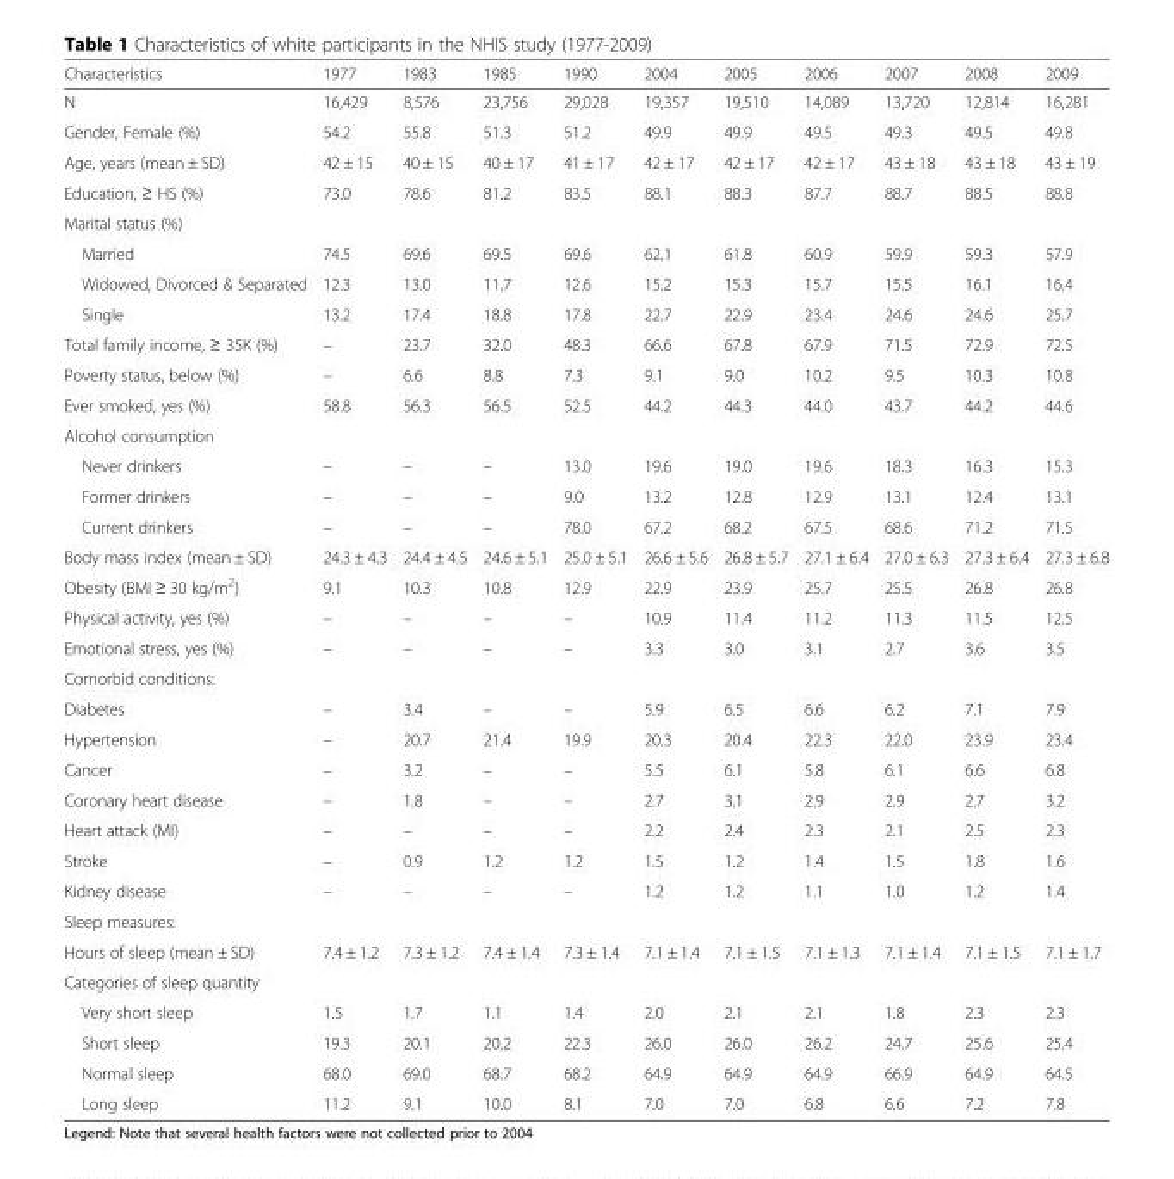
<table><thead><tr><td>Characteristics</td><td>1977</td><td>1983</td><td>1985</td><td>1990</td><td>2004</td><td>2005</td><td>2006</td><td>2007</td><td>2008</td><td>2009</td></tr></thead><tbody><tr><td>N</td><td>16,429</td><td>8,576</td><td>23,756</td><td>29,028</td><td>19,357</td><td>19,510</td><td>14,089</td><td>13,720</td><td>12,814</td><td>16,281</td></tr><tr><td>Gender, Female (%)</td><td>54.2</td><td>55.8</td><td>51.3</td><td>51.2</td><td>49.9</td><td>49.9</td><td>49.5</td><td>49.3</td><td>49.5</td><td>49.8</td></tr><tr><td>Age, years (mean ± SD)</td><td>42 ± 15</td><td>40 ± 15</td><td>40 ± 17</td><td>41 ± 17</td><td>42 ± 17</td><td>42 ± 17</td><td>42 ± 17</td><td>43 ± 18</td><td>43 ± 18</td><td>43 ± 19</td></tr><tr><td>Education, ≥ HS (%)</td><td>73.0</td><td>78.6</td><td>81.2</td><td>83.5</td><td>88.1</td><td>88.3</td><td>87.7</td><td>88.7</td><td>88.5</td><td>88.8</td></tr><tr><td colspan="11">Marital status (%)</td></tr><tr><td>Married</td><td>74.5</td><td>69.6</td><td>69.5</td><td>69.6</td><td>62.1</td><td>61.8</td><td>60.9</td><td>59.9</td><td>59.3</td><td>57.9</td></tr><tr><td>Widowed, Divorced &amp; Separated</td><td>12.3</td><td>13.0</td><td>11.7</td><td>12.6</td><td>15.2</td><td>15.3</td><td>15.7</td><td>15.5</td><td>16.1</td><td>16.4</td></tr><tr><td>Single</td><td>13.2</td><td>17.4</td><td>18.8</td><td>17.8</td><td>22.7</td><td>22.9</td><td>23.4</td><td>24.6</td><td>24.6</td><td>25.7</td></tr><tr><td>Total family income, ≥ 35K (%)</td><td>–</td><td>23.7</td><td>32.0</td><td>48.3</td><td>66.6</td><td>67.8</td><td>67.9</td><td>71.5</td><td>72.9</td><td>72.5</td></tr><tr><td>Poverty status, below (%)</td><td>–</td><td>6.6</td><td>8.8</td><td>7.3</td><td>9.1</td><td>9.0</td><td>10.2</td><td>9.5</td><td>10.3</td><td>10.8</td></tr><tr><td>Ever smoked, yes (%)</td><td>58.8</td><td>56.3</td><td>56.5</td><td>52.5</td><td>44.2</td><td>44.3</td><td>44.0</td><td>43.7</td><td>44.2</td><td>44.6</td></tr><tr><td colspan="11">Alcohol consumption</td></tr><tr><td>Never drinkers</td><td>–</td><td>–</td><td>–</td><td>13.0</td><td>19.6</td><td>19.0</td><td>19.6</td><td>18.3</td><td>16.3</td><td>15.3</td></tr><tr><td>Former drinkers</td><td>–</td><td>–</td><td>–</td><td>9.0</td><td>13.2</td><td>12.8</td><td>12.9</td><td>13.1</td><td>12.4</td><td>13.1</td></tr><tr><td>Current drinkers</td><td>–</td><td>–</td><td>–</td><td>78.0</td><td>67.2</td><td>68.2</td><td>67.5</td><td>68.6</td><td>71.2</td><td>71.5</td></tr><tr><td>Body mass index (mean ± SD)</td><td>24.3 ± 4.3</td><td>24.4 ± 4.5</td><td>24.6 ± 5.1</td><td>25.0 ± 5.1</td><td>26.6 ± 5.6</td><td>26.8 ± 5.7</td><td>27.1 ± 6.4</td><td>27.0 ± 6.3</td><td>27.3 ± 6.4</td><td>27.3 ± 6.8</td></tr><tr><td>Obesity (BMI ≥ 30 kg/m<sup>2</sup>)</td><td>9.1</td><td>10.3</td><td>10.8</td><td>12.9</td><td>22.9</td><td>23.9</td><td>25.7</td><td>25.5</td><td>26.8</td><td>26.8</td></tr><tr><td>Physical activity, yes (%)</td><td>–</td><td>–</td><td>–</td><td>–</td><td>10.9</td><td>11.4</td><td>11.2</td><td>11.3</td><td>11.5</td><td>12.5</td></tr><tr><td>Emotional stress, yes (%)</td><td>–</td><td>–</td><td>–</td><td>–</td><td>3.3</td><td>3.0</td><td>3.1</td><td>2.7</td><td>3.6</td><td>3.5</td></tr><tr><td colspan="11">Comorbid conditions:</td></tr><tr><td>Diabetes</td><td>–</td><td>3.4</td><td>–</td><td>–</td><td>5.9</td><td>6.5</td><td>6.6</td><td>6.2</td><td>7.1</td><td>7.9</td></tr><tr><td>Hypertension</td><td>–</td><td>20.7</td><td>21.4</td><td>19.9</td><td>20.3</td><td>20.4</td><td>22.3</td><td>22.0</td><td>23.9</td><td>23.4</td></tr><tr><td>Cancer</td><td>–</td><td>3.2</td><td>–</td><td>–</td><td>5.5</td><td>6.1</td><td>5.8</td><td>6.1</td><td>6.6</td><td>6.8</td></tr><tr><td>Coronary heart disease</td><td>–</td><td>1.8</td><td>–</td><td>–</td><td>2.7</td><td>3.1</td><td>2.9</td><td>2.9</td><td>2.7</td><td>3.2</td></tr><tr><td>Heart attack (MI)</td><td>–</td><td>–</td><td>–</td><td>–</td><td>2.2</td><td>2.4</td><td>2.3</td><td>2.1</td><td>2.5</td><td>2.3</td></tr><tr><td>Stroke</td><td>–</td><td>0.9</td><td>1.2</td><td>1.2</td><td>1.5</td><td>1.2</td><td>1.4</td><td>1.5</td><td>1.8</td><td>1.6</td></tr><tr><td>Kidney disease</td><td>–</td><td>–</td><td>–</td><td>–</td><td>1.2</td><td>1.2</td><td>1.1</td><td>1.0</td><td>1.2</td><td>1.4</td></tr><tr><td colspan="11">Sleep measures:</td></tr><tr><td>Hours of sleep (mean ± SD)</td><td>7.4 ± 1.2</td><td>7.3 ± 1.2</td><td>7.4 ± 1.4</td><td>7.3 ± 1.4</td><td>7.1 ± 1.4</td><td>7.1 ± 1.5</td><td>7.1 ± 1.3</td><td>7.1 ± 1.4</td><td>7.1 ± 1.5</td><td>7.1 ± 1.7</td></tr><tr><td colspan="11">Categories of sleep quantity</td></tr><tr><td>Very short sleep</td><td>1.5</td><td>1.7</td><td>1.1</td><td>1.4</td><td>2.0</td><td>2.1</td><td>2.1</td><td>1.8</td><td>2.3</td><td>2.3</td></tr><tr><td>Short sleep</td><td>19.3</td><td>20.1</td><td>20.2</td><td>22.3</td><td>26.0</td><td>26.0</td><td>26.2</td><td>24.7</td><td>25.6</td><td>25.4</td></tr><tr><td>Normal sleep</td><td>68.0</td><td>69.0</td><td>68.7</td><td>68.2</td><td>64.9</td><td>64.9</td><td>64.9</td><td>66.9</td><td>64.9</td><td>64.5</td></tr><tr><td>Long sleep</td><td>11.2</td><td>9.1</td><td>10.0</td><td>8.1</td><td>7.0</td><td>7.0</td><td>6.8</td><td>6.6</td><td>7.2</td><td>7.8</td></tr></tbody></table>